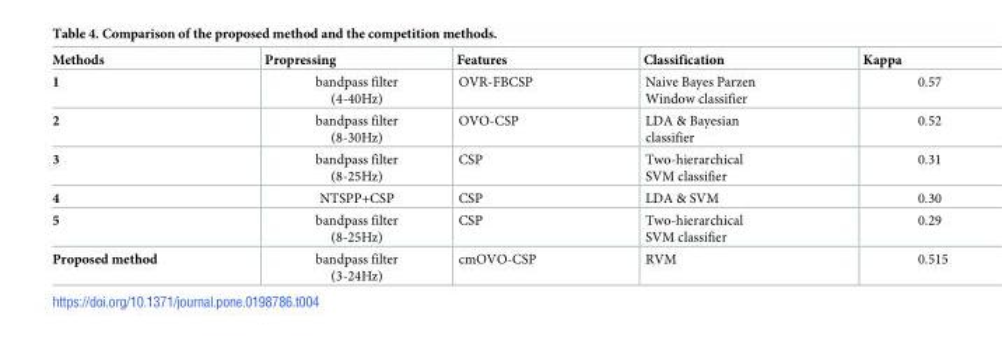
<table><thead><tr><td>Methods</td><td>Propressing</td><td>Features</td><td>Classification</td><td>Kappa</td></tr></thead><tbody><tr><td>1</td><td>bandpass filter (4-40Hz)</td><td>OVR-FBCSP</td><td>Naive Bayes Parzen Window classifier</td><td>0.57</td></tr><tr><td>2</td><td>bandpass filter (8-30Hz)</td><td>OVO-CSP</td><td>LDA &amp; Bayesian classifier</td><td>0.52</td></tr><tr><td>3</td><td>bandpass filter (8-25Hz)</td><td>CSP</td><td>Two-hierarchical SVM classifier</td><td>0.31</td></tr><tr><td>4</td><td>NTSPP+CSP</td><td>CSP</td><td>LDA &amp; SVM</td><td>0.30</td></tr><tr><td>5</td><td>bandpass filter (8-25Hz)</td><td>CSP</td><td>Two-hierarchical SVM classifier</td><td>0.29</td></tr><tr><td>Proposed method</td><td>bandpass filter (3-24Hz)</td><td>cmOVO-CSP</td><td>RVM</td><td>0.515</td></tr></tbody></table>